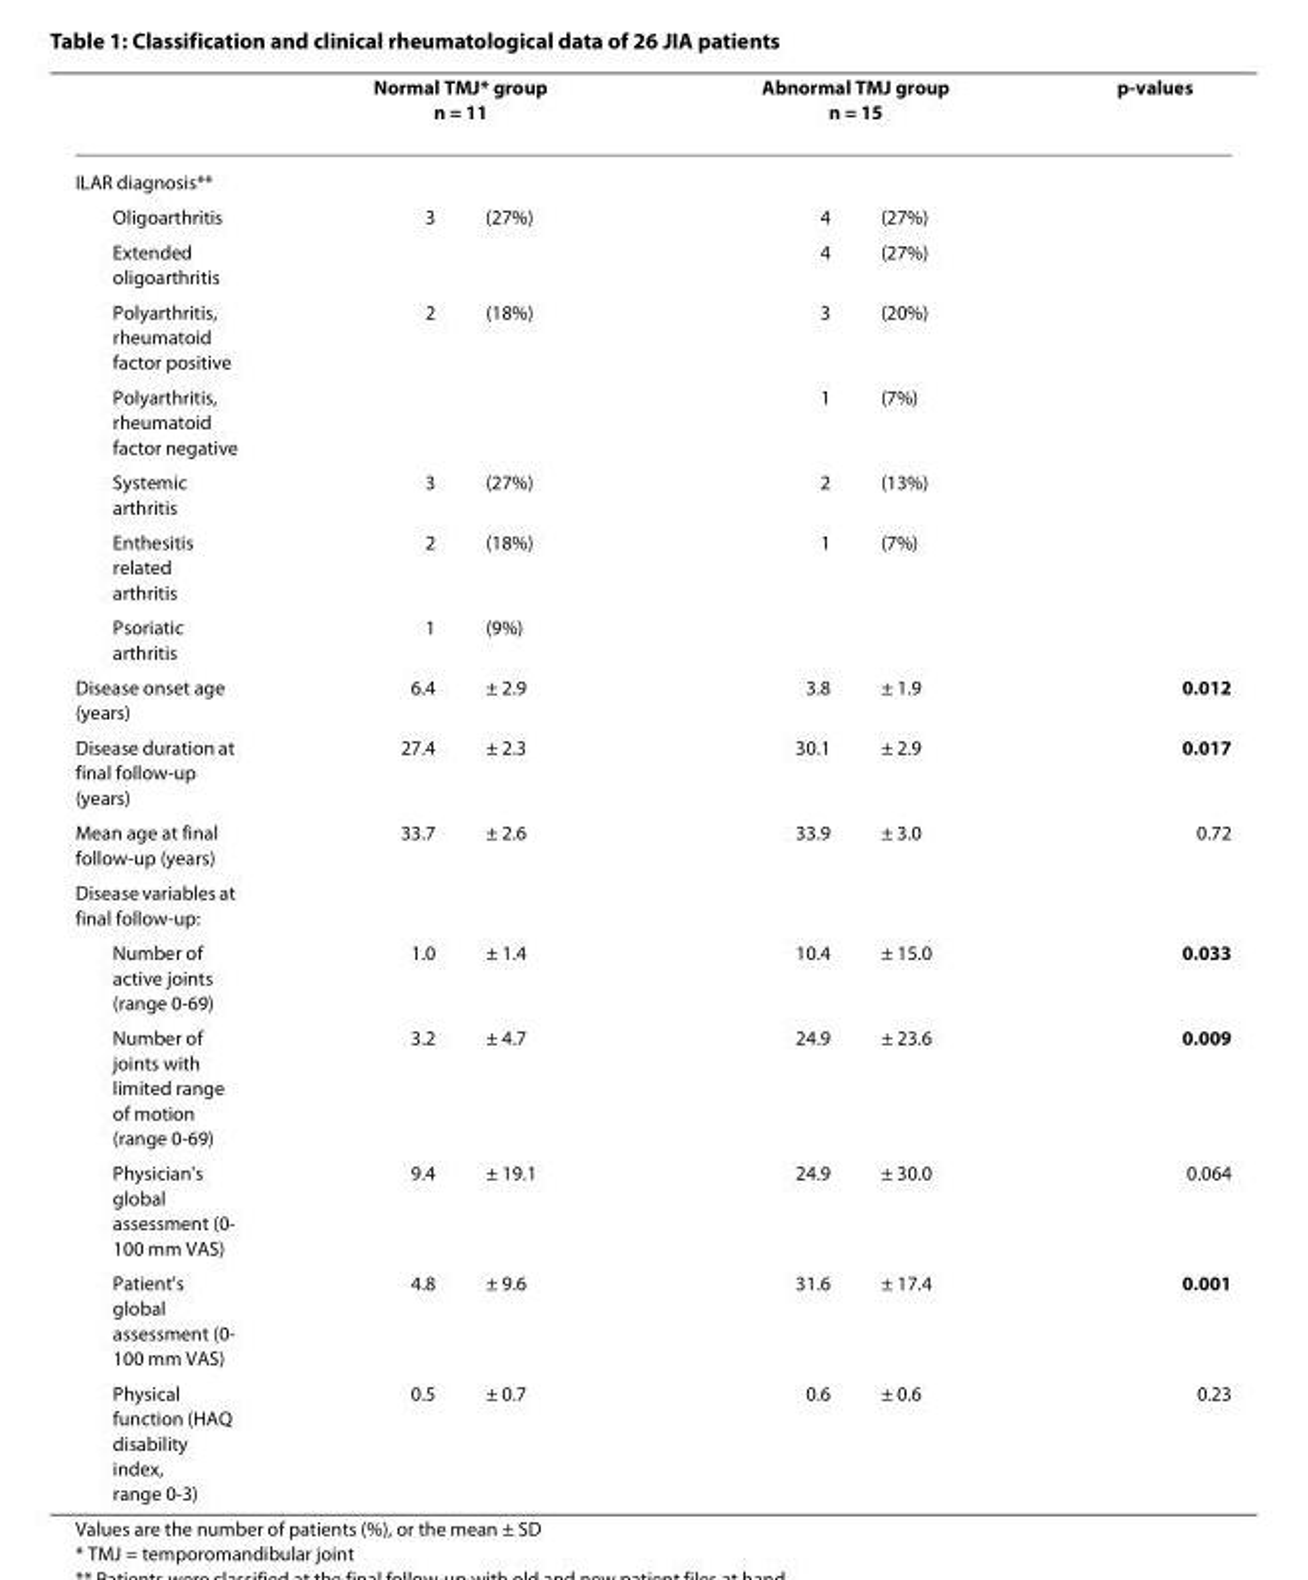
<table><thead><tr><td rowspan="2">ILAR diagnosis**</td><td colspan="2">Normal TMJ* group n = 11</td><td colspan="2">Abnormal TMJ group n = 15</td><td rowspan="2">p-values</td></tr><tr><td></td><td></td><td></td><td></td></tr></thead><tbody><tr><td>Oligoarthritis</td><td>3</td><td>(27%)</td><td>4</td><td>(27%)</td><td></td></tr><tr><td>Extended oligoarthritis</td><td></td><td></td><td>4</td><td>(27%)</td><td></td></tr><tr><td>Polyarthritis, rheumatoid factor positive</td><td>2</td><td>(18%)</td><td>3</td><td>(20%)</td><td></td></tr><tr><td>Polyarthritis, rheumatoid factor negative</td><td></td><td></td><td>1</td><td>(7%)</td><td></td></tr><tr><td>Systemic arthritis</td><td>3</td><td>(27%)</td><td>2</td><td>(13%)</td><td></td></tr><tr><td>Enthesitis related arthritis</td><td>2</td><td>(18%)</td><td>1</td><td>(7%)</td><td></td></tr><tr><td>Psoriatic arthritis</td><td>1</td><td>(9%)</td><td></td><td></td><td></td></tr><tr><td>Disease onset age (years)</td><td>6.4</td><td>± 2.9</td><td>3.8</td><td>± 1.9</td><td>0.012</td></tr><tr><td>Disease duration at final follow-up (years)</td><td>27.4</td><td>± 2.3</td><td>30.1</td><td>± 2.9</td><td>0.017</td></tr><tr><td>Mean age at final follow-up (years)</td><td>33.7</td><td>± 2.6</td><td>33.9</td><td>± 3.0</td><td>0.72</td></tr><tr><td colspan="6">Disease variables at final follow-up:</td></tr><tr><td>Number of active joints (range 0-69)</td><td>1.0</td><td>± 1.4</td><td>10.4</td><td>± 15.0</td><td>0.033</td></tr><tr><td>Number of joints with limited range of motion (range 0-69)</td><td>3.2</td><td>± 4.7</td><td>24.9</td><td>± 23.6</td><td>0.009</td></tr><tr><td>Physician&#x27;s global assessment (0- 100 mm VAS)</td><td>9.4</td><td>± 19.1</td><td>24.9</td><td>± 30.0</td><td>0.064</td></tr><tr><td>Patient&#x27;s global assessment (0- 100 mm VAS)</td><td>4.8</td><td>± 9.6</td><td>31.6</td><td>± 17.4</td><td>0.001</td></tr><tr><td>Physical function (HAQ disability index, range 0-3)</td><td>0.5</td><td>± 0.7</td><td>0.6</td><td>± 0.6</td><td>0.23</td></tr></tbody></table>